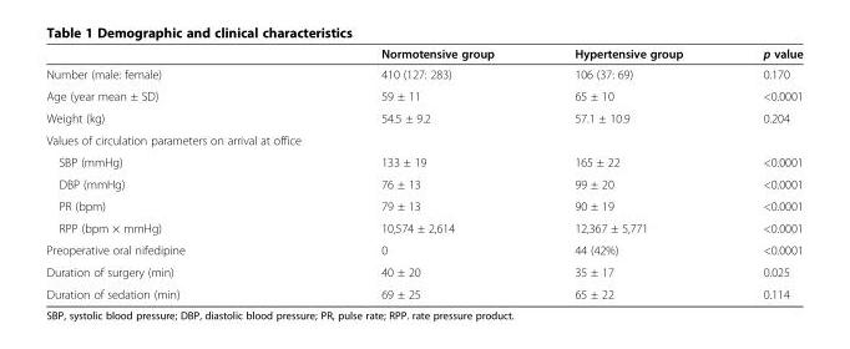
<table><thead><tr><td></td><td>Normotensive group</td><td>Hypertensive group</td><td>p value</td></tr></thead><tbody><tr><td>Number (male: female)</td><td>410 (127: 283)</td><td>106 (37: 69)</td><td>0.170</td></tr><tr><td>Age (year mean ± SD)</td><td>59 ± 11</td><td>65 ± 10</td><td>&lt;0.0001</td></tr><tr><td>Weight (kg)</td><td>54.5 ± 9.2</td><td>57.1 ± 10.9</td><td>0.204</td></tr><tr><td colspan="4">Values of circulation parameters on arrival at office</td></tr><tr><td>SBP (mmHg)</td><td>133 ± 19</td><td>165 ± 22</td><td>&lt;0.0001</td></tr><tr><td>DBP (mmHg)</td><td>76 ± 13</td><td>99 ± 20</td><td>&lt;0.0001</td></tr><tr><td>PR (bpm)</td><td>79 ± 13</td><td>90 ± 19</td><td>&lt;0.0001</td></tr><tr><td>RPP (bpm × mmHg)</td><td>10,574 ± 2,614</td><td>12,367 ± 5,771</td><td>&lt;0.0001</td></tr><tr><td>Preoperative oral nifedipine</td><td>0</td><td>44 (42%)</td><td>&lt;0.0001</td></tr><tr><td>Duration of surgery (min)</td><td>40 ± 20</td><td>35 ± 17</td><td>0.025</td></tr><tr><td>Duration of sedation (min)</td><td>69 ± 25</td><td>65 ± 22</td><td>0.114</td></tr></tbody></table>